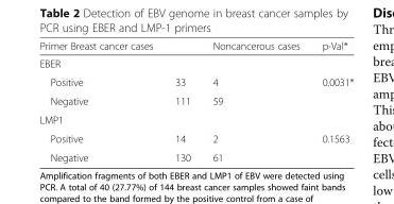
<table><thead><tr><td>Primer Breast cancer cases</td><td></td><td>Noncancerous cases</td><td>p-Val*</td></tr></thead><tbody><tr><td colspan="4">EBER</td></tr><tr><td>Positive</td><td>33</td><td>4</td><td>0.0031*</td></tr><tr><td>Negative</td><td>111</td><td>59</td><td></td></tr><tr><td colspan="4">LMP1</td></tr><tr><td>Positive</td><td>14</td><td>2</td><td>0.1563</td></tr><tr><td>Negative</td><td>130</td><td>61</td><td></td></tr></tbody></table>